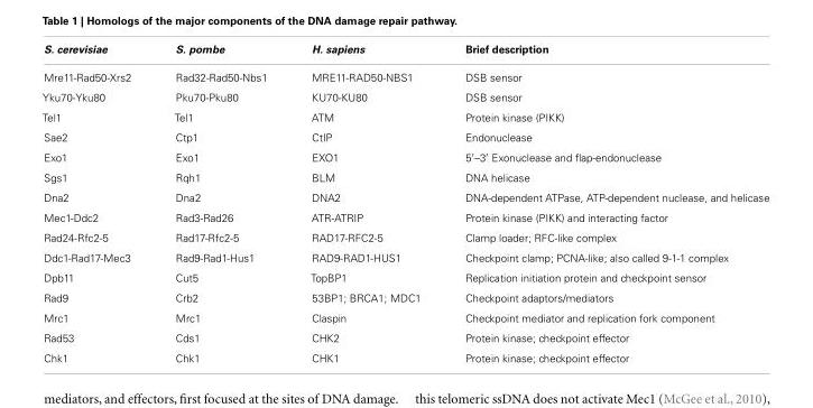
<table><thead><tr><td>S. cerevisiae</td><td>S. pombe</td><td>H. sapiens</td><td>Brief description</td></tr></thead><tbody><tr><td>Mre11-Rad50-Xrs2</td><td>Rad32-Rad50-Nbs1</td><td>MRE11-RAD50-NBS1</td><td>DSB sensor</td></tr><tr><td>Yku70-Yku80</td><td>Pku70-Pku80</td><td>KU70-KU80</td><td>DSB sensor</td></tr><tr><td>Tel1</td><td>Tel1</td><td>ATM</td><td>Protein kinase (PIKK)</td></tr><tr><td>Sae2</td><td>Ctp1</td><td>CtIP</td><td>Endonuclease</td></tr><tr><td>Exo1</td><td>Exo1</td><td>EXO1</td><td>5′–3′ Exonuclease and flap-endonuclease</td></tr><tr><td>Sgs1</td><td>Rqh1</td><td>BLM</td><td>DNA helicase</td></tr><tr><td>Dna2</td><td>Dna2</td><td>DNA2</td><td>DNA-dependent ATPase, ATP-dependent nuclease, and helicase</td></tr><tr><td>Mec1-Ddc2</td><td>Rad3-Rad26</td><td>ATR-ATRIP</td><td>Protein kinase (PIKK) and interacting factor</td></tr><tr><td>Rad24-Rfc2-5</td><td>Rad17-Rfc2-5</td><td>RAD17-RFC2-5</td><td>Clamp loader; RFC-like complex</td></tr><tr><td>Ddc1-Rad17-Mec3</td><td>Rad9-Rad1-Hus1</td><td>RAD9-RAD1-HUS1</td><td>Checkpoint clamp; PCNA-like; also called 9-1-1 complex</td></tr><tr><td>Dpb11</td><td>Cut5</td><td>TopBP1</td><td>Replication initiation protein and checkpoint sensor</td></tr><tr><td>Rad9</td><td>Crb2</td><td>53BP1; BRCA1; MDC1</td><td>Checkpoint adaptors/mediators</td></tr><tr><td>Mrc1</td><td>Mrc1</td><td>Claspin</td><td>Checkpoint mediator and replication fork component</td></tr><tr><td>Rad53</td><td>Cds1</td><td>CHK2</td><td>Protein kinase; checkpoint effector</td></tr><tr><td>Chk1</td><td>Chk1</td><td>CHK1</td><td>Protein kinase; checkpoint effector</td></tr></tbody></table>